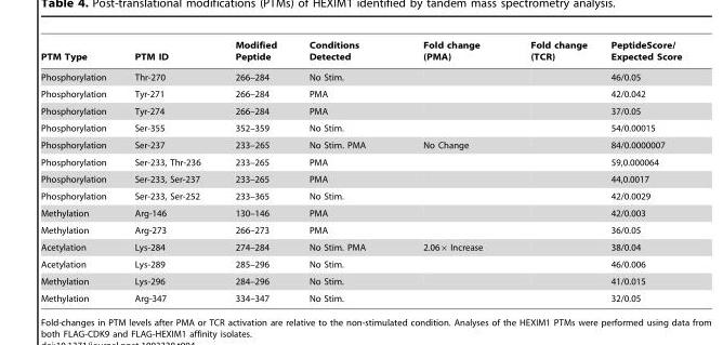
<table><thead><tr><td>PTM Type</td><td>PTM ID</td><td>Modified Peptide</td><td>Conditions Detected</td><td>Fold change (PMA)</td><td>Fold change (TCR)</td><td>PeptideScore/ Expected Score</td></tr></thead><tbody><tr><td>Phosphorylation</td><td>Thr-270</td><td>266–284</td><td>No Stim.</td><td></td><td></td><td>46/0.05</td></tr><tr><td>Phosphorylation</td><td>Tyr-271</td><td>266–284</td><td>PMA</td><td></td><td></td><td>42/0.042</td></tr><tr><td>Phosphorylation</td><td>Tyr-274</td><td>266–284</td><td>PMA</td><td></td><td></td><td>37/0.05</td></tr><tr><td>Phosphorylation</td><td>Ser-355</td><td>352–359</td><td>No Stim.</td><td></td><td></td><td>54/0.00015</td></tr><tr><td>Phosphorylation</td><td>Ser-237</td><td>233–265</td><td>No Stim. PMA</td><td>No Change</td><td></td><td>84/0.0000007</td></tr><tr><td>Phosphorylation</td><td>Ser-233, Thr-236</td><td>233–265</td><td>PMA</td><td></td><td></td><td>59,0.000064</td></tr><tr><td>Phosphorylation</td><td>Ser-233, Ser-237</td><td>233–265</td><td>PMA</td><td></td><td></td><td>44,0.0017</td></tr><tr><td>Phosphorylation</td><td>Ser-233, Ser-252</td><td>233–365</td><td>No Stim.</td><td></td><td></td><td>42/0.0029</td></tr><tr><td>Methylation</td><td>Arg-146</td><td>130–146</td><td>PMA</td><td></td><td></td><td>42/0.003</td></tr><tr><td>Methylation</td><td>Arg-273</td><td>266–273</td><td>PMA</td><td></td><td></td><td>36/0.05</td></tr><tr><td>Acetylation</td><td>Lys-284</td><td>274–284</td><td>No Stim. PMA</td><td>2.06× Increase</td><td></td><td>38/0.04</td></tr><tr><td>Acetylation</td><td>Lys-289</td><td>285–296</td><td>No Stim.</td><td></td><td></td><td>46/0.006</td></tr><tr><td>Methylation</td><td>Lys-296</td><td>284–296</td><td>No Stim.</td><td></td><td></td><td>41/0.015</td></tr><tr><td>Methylation</td><td>Arg-347</td><td>334–347</td><td>No Stim.</td><td></td><td></td><td>32/0.05</td></tr></tbody></table>